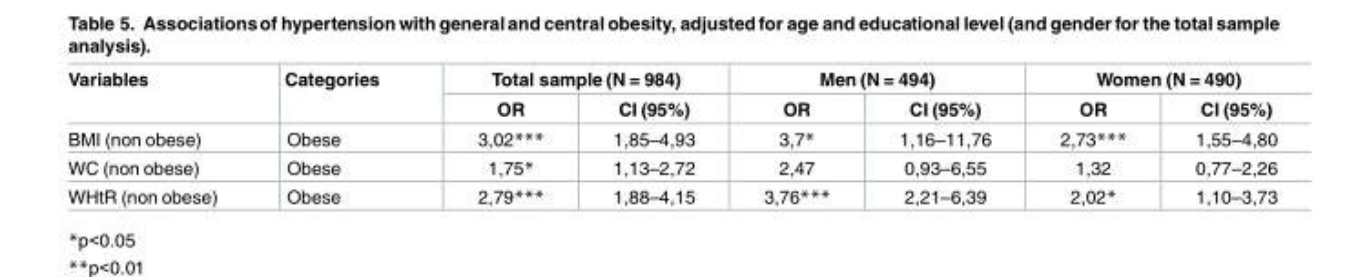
<table><thead><tr><td rowspan="2">Variables</td><td rowspan="2">Categories</td><td colspan="2">Total sample (N = 984)</td><td colspan="2">Men (N = 494)</td><td colspan="2">Women (N = 490)</td></tr><tr><td>OR</td><td>CI (95%)</td><td>OR</td><td>CI (95%)</td><td>OR</td><td>CI (95%)</td></tr></thead><tbody><tr><td>BMI (non obese)</td><td>Obese</td><td>3,02***</td><td>1,85–4,93</td><td>3,7*</td><td>1,16–11,76</td><td>2,73***</td><td>1,55–4,80</td></tr><tr><td>WC (non obese)</td><td>Obese</td><td>1,75*</td><td>1,13–2,72</td><td>2,47</td><td>0,93–6,55</td><td>1,32</td><td>0,77–2,26</td></tr><tr><td>WHtR (non obese)</td><td>Obese</td><td>2,79***</td><td>1,88–4,15</td><td>3,76***</td><td>2,21–6,39</td><td>2,02*</td><td>1,10–3,73</td></tr></tbody></table>